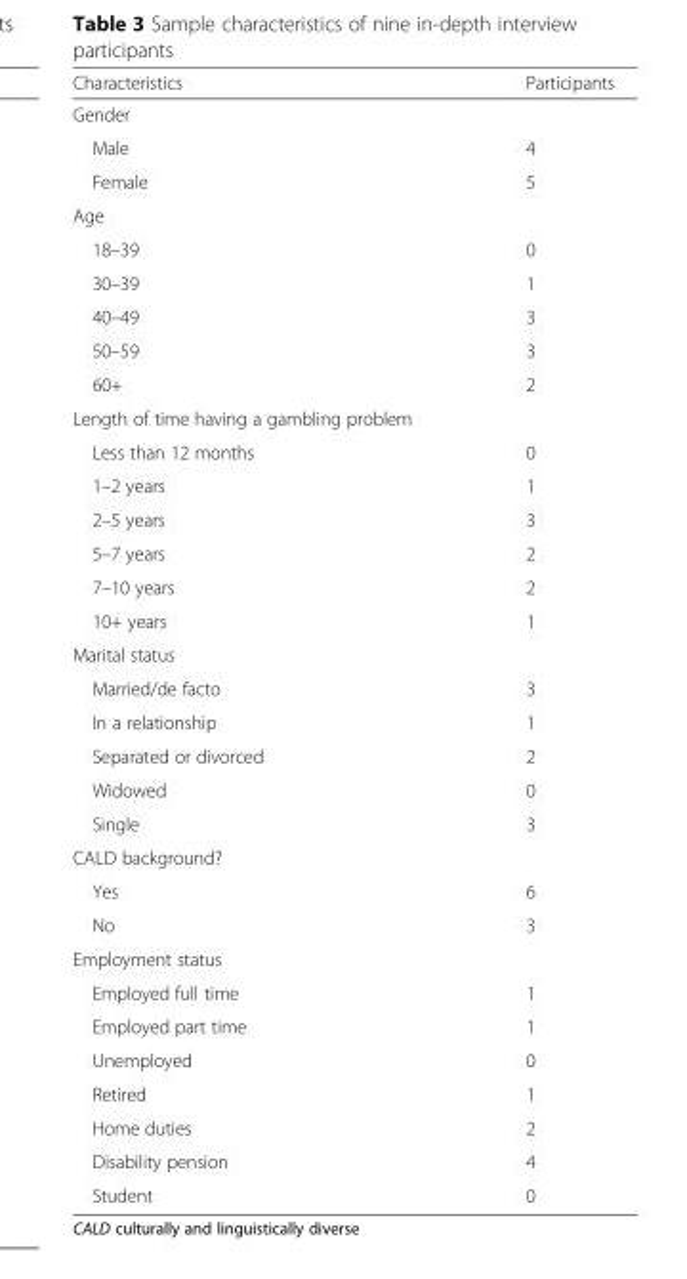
<table><thead><tr><td>Characteristics</td><td>Participants</td></tr></thead><tbody><tr><td colspan="2">Gender</td></tr><tr><td>Male</td><td>4</td></tr><tr><td>Female</td><td>5</td></tr><tr><td colspan="2">Age</td></tr><tr><td>18–39</td><td>0</td></tr><tr><td>30–39</td><td>1</td></tr><tr><td>40–49</td><td>3</td></tr><tr><td>50–59</td><td>3</td></tr><tr><td>60+</td><td>2</td></tr><tr><td colspan="2">Length of time having a gambling problem</td></tr><tr><td>Less than 12 months</td><td>0</td></tr><tr><td>1–2 years</td><td>1</td></tr><tr><td>2–5 years</td><td>3</td></tr><tr><td>5–7 years</td><td>2</td></tr><tr><td>7–10 years</td><td>2</td></tr><tr><td>10+ years</td><td>1</td></tr><tr><td colspan="2">Marital status</td></tr><tr><td>Married/de facto</td><td>3</td></tr><tr><td>In a relationship</td><td>1</td></tr><tr><td>Separated or divorced</td><td>2</td></tr><tr><td>Widowed</td><td>0</td></tr><tr><td>Single</td><td>3</td></tr><tr><td colspan="2">CALD background?</td></tr><tr><td>Yes</td><td>6</td></tr><tr><td>No</td><td>3</td></tr><tr><td colspan="2">Employment status</td></tr><tr><td>Employed full time</td><td>1</td></tr><tr><td>Employed part time</td><td>1</td></tr><tr><td>Unemployed</td><td>0</td></tr><tr><td>Retired</td><td>1</td></tr><tr><td>Home duties</td><td>2</td></tr><tr><td>Disability pension</td><td>4</td></tr><tr><td>Student</td><td>0</td></tr></tbody></table>